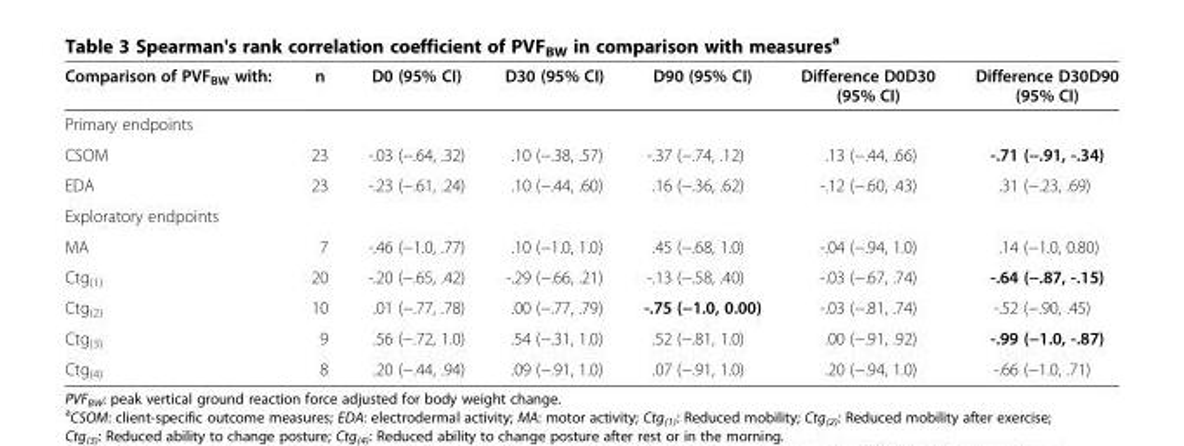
<table><thead><tr><td>Comparison of PVF<sub>BW</sub> with:</td><td>n</td><td>D0 (95% CI)</td><td>D30 (95% CI)</td><td>D90 (95% CI)</td><td>Difference D0D30 (95% CI)</td><td>Difference D30D90 (95% CI)</td></tr></thead><tbody><tr><td colspan="7">Primary endpoints</td></tr><tr><td>CSOM</td><td>23</td><td>-.03 (−.64, .32)</td><td>.10 (−.38, .57)</td><td>-.37 (−.74, .12)</td><td>.13 (−.44, .66)</td><td>-.71 (−.91, -.34)</td></tr><tr><td>EDA</td><td>23</td><td>-.23 (−.61, .24)</td><td>.10 (−.44, .60)</td><td>.16 (−.36, .62)</td><td>-.12 (−.60, .43)</td><td>.31 (−.23, .69)</td></tr><tr><td colspan="7">Exploratory endpoints</td></tr><tr><td>MA</td><td>7</td><td>-.46 (−1.0, .77)</td><td>.10 (−1.0, 1.0)</td><td>.45 (−.68, 1.0)</td><td>-.04 (−.94, 1.0)</td><td>.14 (−1.0, 0.80)</td></tr><tr><td>Ctg<sub>(1)</sub></td><td>20</td><td>-.20 (−.65, .42)</td><td>-.29 (−.66, .21)</td><td>-.13 (−.58, .40)</td><td>-.03 (−.67, .74)</td><td>-.64 (−.87, -.15)</td></tr><tr><td>Ctg<sub>(2)</sub></td><td>10</td><td>.01 (−.77, .78)</td><td>.00 (−.77, .79)</td><td>-.75 (−1.0, 0.00)</td><td>-.03 (−.81, .74)</td><td>-.52 (−.90, .45)</td></tr><tr><td>Ctg<sub>(3)</sub></td><td>9</td><td>.56 (−.72, 1.0)</td><td>.54 (−.31, 1.0)</td><td>.52 (−.81, 1.0)</td><td>.00 (−.91, .92)</td><td>-.99 (−1.0, -.87)</td></tr><tr><td>Ctg<sub>(4)</sub></td><td>8</td><td>.20 (−.44, .94)</td><td>.09 (−.91, 1.0)</td><td>.07 (−.91, 1.0)</td><td>.20 (−.94, 1.0)</td><td>-.66 (−1.0, .71)</td></tr></tbody></table>